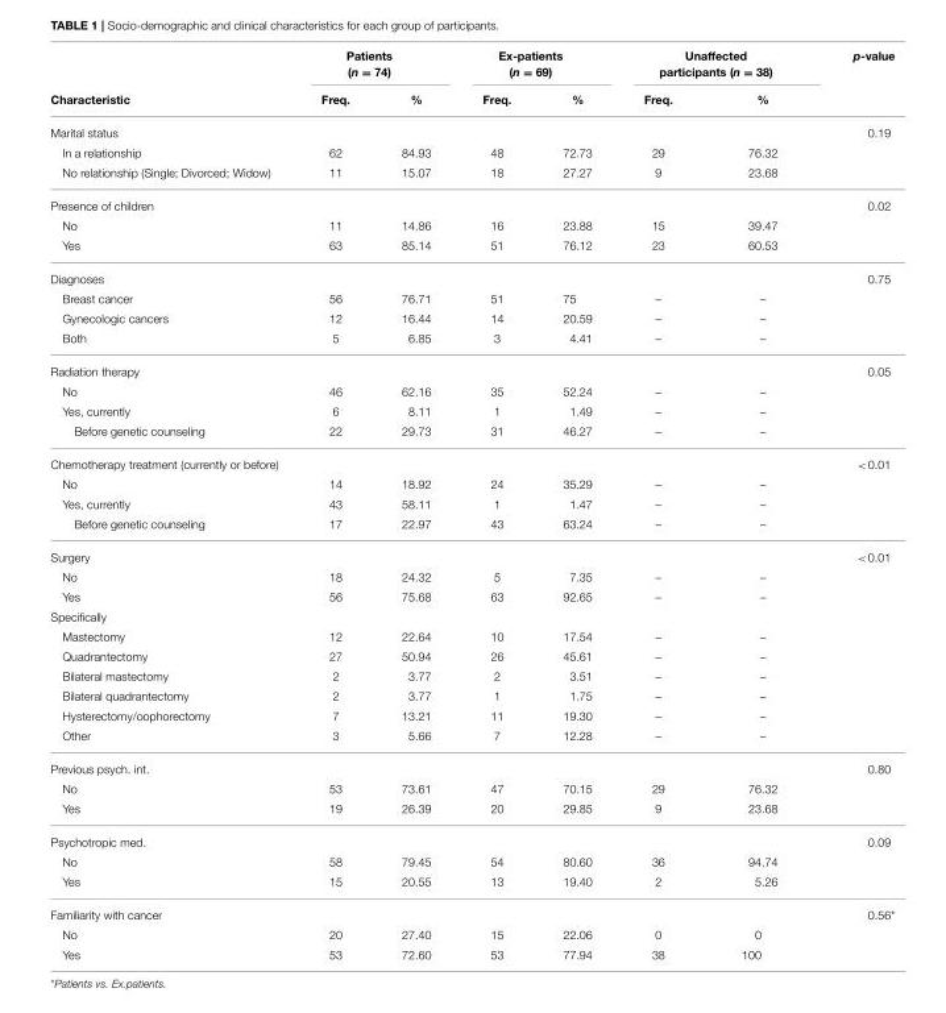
<table><thead><tr><td rowspan="2">Characteristic</td><td colspan="2">Patients (n = 74)</td><td colspan="2">Ex-patients (n = 69)</td><td colspan="2">Unaffected participants (n = 38)</td><td rowspan="2">p-value</td></tr><tr><td>Freq.</td><td>%</td><td>Freq.</td><td>%</td><td>Freq.</td><td>%</td></tr></thead><tbody><tr><td>Marital status</td><td></td><td></td><td></td><td></td><td></td><td></td><td>0.19</td></tr><tr><td>In a relationship</td><td>62</td><td>84.93</td><td>48</td><td>72.73</td><td>29</td><td>76.32</td><td></td></tr><tr><td>No relationship (Single; Divorced; Widow)</td><td>11</td><td>15.07</td><td>18</td><td>27.27</td><td>9</td><td>23.68</td><td></td></tr><tr><td>Presence of children</td><td></td><td></td><td></td><td></td><td></td><td></td><td>0.02</td></tr><tr><td>No</td><td>11</td><td>14.86</td><td>16</td><td>23.88</td><td>15</td><td>39.47</td><td></td></tr><tr><td>Yes</td><td>63</td><td>85.14</td><td>51</td><td>76.12</td><td>23</td><td>60.53</td><td></td></tr><tr><td>Diagnoses</td><td></td><td></td><td></td><td></td><td></td><td></td><td>0.75</td></tr><tr><td>Breast cancer</td><td>56</td><td>76.71</td><td>51</td><td>75</td><td>–</td><td>–</td><td></td></tr><tr><td>Gynecologic cancers</td><td>12</td><td>16.44</td><td>14</td><td>20.59</td><td>–</td><td>–</td><td></td></tr><tr><td>Both</td><td>5</td><td>6.85</td><td>3</td><td>4.41</td><td>–</td><td>–</td><td></td></tr><tr><td>Radiation therapy</td><td></td><td></td><td></td><td></td><td></td><td></td><td>0.05</td></tr><tr><td>No</td><td>46</td><td>62.16</td><td>35</td><td>52.24</td><td>–</td><td>–</td><td></td></tr><tr><td>Yes, currently</td><td>6</td><td>8.11</td><td>1</td><td>1.49</td><td>–</td><td>–</td><td></td></tr><tr><td>Before genetic counseling</td><td>22</td><td>29.73</td><td>31</td><td>46.27</td><td>–</td><td>–</td><td></td></tr><tr><td>Chemotherapy treatment (currently or before)</td><td></td><td></td><td></td><td></td><td></td><td></td><td>&lt;0.01</td></tr><tr><td>No</td><td>14</td><td>18.92</td><td>24</td><td>35.29</td><td>–</td><td>–</td><td></td></tr><tr><td>Yes, currently</td><td>43</td><td>58.11</td><td>1</td><td>1.47</td><td>–</td><td>–</td><td></td></tr><tr><td>Before genetic counseling</td><td>17</td><td>22.97</td><td>43</td><td>63.24</td><td>–</td><td>–</td><td></td></tr><tr><td>Surgery</td><td></td><td></td><td></td><td></td><td></td><td></td><td>&lt;0.01</td></tr><tr><td>No</td><td>18</td><td>24.32</td><td>5</td><td>7.35</td><td>–</td><td>–</td><td></td></tr><tr><td>Yes</td><td>56</td><td>75.68</td><td>63</td><td>92.65</td><td>–</td><td>–</td><td></td></tr><tr><td colspan="8">Specifically</td></tr><tr><td>Mastectomy</td><td>12</td><td>22.64</td><td>10</td><td>17.54</td><td>–</td><td>–</td><td></td></tr><tr><td>Quadrantectomy</td><td>27</td><td>50.94</td><td>26</td><td>45.61</td><td>–</td><td>–</td><td></td></tr><tr><td>Bilateral mastectomy</td><td>2</td><td>3.77</td><td>2</td><td>3.51</td><td>–</td><td>–</td><td></td></tr><tr><td>Bilateral quadrantectomy</td><td>2</td><td>3.77</td><td>1</td><td>1.75</td><td>–</td><td>–</td><td></td></tr><tr><td>Hysterectomy/oophorectomy</td><td>7</td><td>13.21</td><td>11</td><td>19.30</td><td>–</td><td>–</td><td></td></tr><tr><td>Other</td><td>3</td><td>5.66</td><td>7</td><td>12.28</td><td>–</td><td>–</td><td></td></tr><tr><td>Previous psych. int.</td><td></td><td></td><td></td><td></td><td></td><td></td><td>0.80</td></tr><tr><td>No</td><td>53</td><td>73.61</td><td>47</td><td>70.15</td><td>29</td><td>76.32</td><td></td></tr><tr><td>Yes</td><td>19</td><td>26.39</td><td>20</td><td>29.85</td><td>9</td><td>23.68</td><td></td></tr><tr><td>Psychotropic med.</td><td></td><td></td><td></td><td></td><td></td><td></td><td>0.09</td></tr><tr><td>No</td><td>58</td><td>79.45</td><td>54</td><td>80.60</td><td>36</td><td>94.74</td><td></td></tr><tr><td>Yes</td><td>15</td><td>20.55</td><td>13</td><td>19.40</td><td>2</td><td>5.26</td><td></td></tr><tr><td>Familiarity with cancer</td><td></td><td></td><td></td><td></td><td></td><td></td><td>0.56*</td></tr><tr><td>No</td><td>20</td><td>27.40</td><td>15</td><td>22.06</td><td>0</td><td>0</td><td></td></tr><tr><td>Yes</td><td>53</td><td>72.60</td><td>53</td><td>77.94</td><td>38</td><td>100</td><td></td></tr></tbody></table>